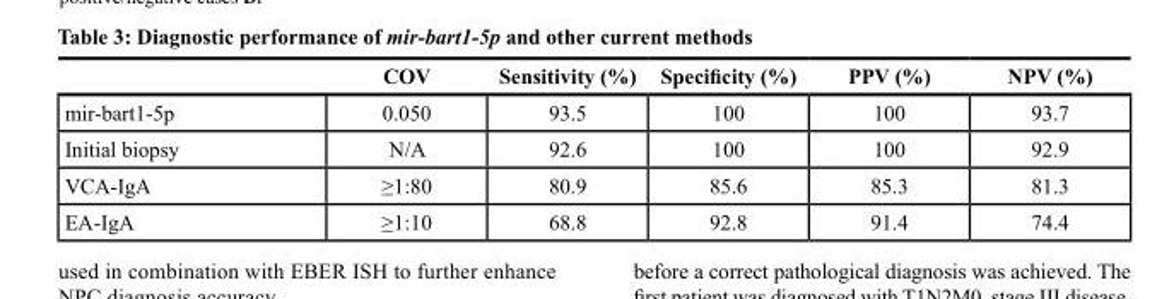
<table><thead><tr><td></td><td>COV</td><td>Sensitivity (%)</td><td>Specificity (%)</td><td>PPV (%)</td><td>NPV (%)</td></tr></thead><tbody><tr><td>mir-bart1-5p</td><td>0.050</td><td>93.5</td><td>100</td><td>100</td><td>93.7</td></tr><tr><td>Initial biopsy</td><td>N/A</td><td>92.6</td><td>100</td><td>100</td><td>92.9</td></tr><tr><td>VCA-IgA</td><td>≥1:80</td><td>80.9</td><td>85.6</td><td>85.3</td><td>81.3</td></tr><tr><td>EA-IgA</td><td>≥1:10</td><td>68.8</td><td>92.8</td><td>91.4</td><td>74.4</td></tr></tbody></table>